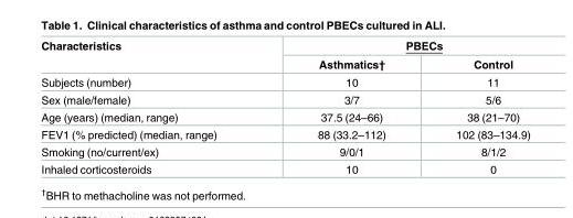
<table><thead><tr><td rowspan="2">Characteristics</td><td colspan="2">PBECs</td></tr><tr><td>Asthmatics†</td><td>Control</td></tr></thead><tbody><tr><td>Subjects (number)</td><td>10</td><td>11</td></tr><tr><td>Sex (male/female)</td><td>3/7</td><td>5/6</td></tr><tr><td>Age (years) (median, range)</td><td>37.5 (24–66)</td><td>38 (21–70)</td></tr><tr><td>FEV1 (% predicted) (median, range)</td><td>88 (33.2–112)</td><td>102 (83–134.9)</td></tr><tr><td>Smoking (no/current/ex)</td><td>9/0/1</td><td>8/1/2</td></tr><tr><td>Inhaled corticosteroids</td><td>10</td><td>0</td></tr></tbody></table>